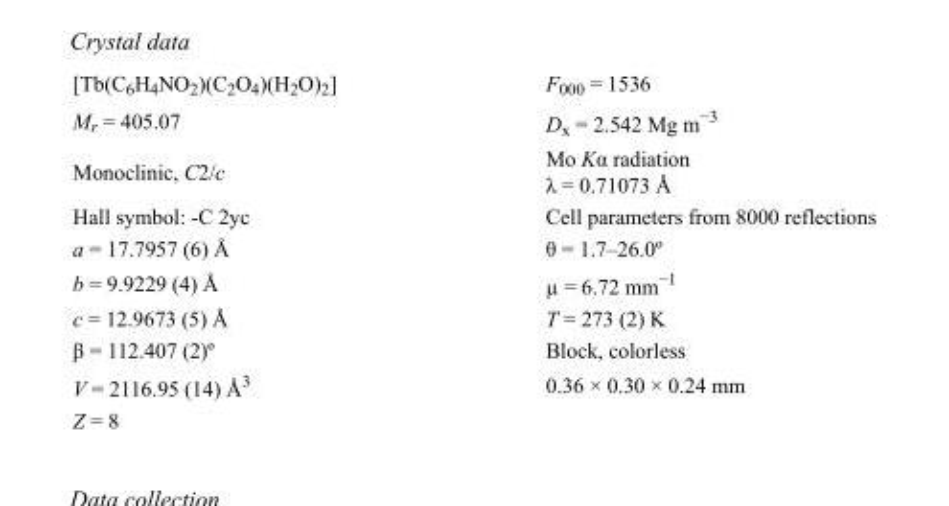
<table><tbody><tr><td>[Tb(C<sub>6</sub>H<sub>4</sub>NO<sub>2</sub>)(C<sub>2</sub>O<sub>4</sub>)(H<sub>2</sub>O)<sub>2</sub>]</td><td>F000 = 1536</td></tr><tr><td>M<sub>r</sub> = 405.07</td><td>D<sub>x</sub> = 2.542 Mg m<sup>−3</sup></td></tr><tr><td>Monoclinic, C2/c</td><td>Mo Kα radiation λ = 0.71073 Å</td></tr><tr><td>Hall symbol: -C 2yc</td><td>Cell parameters from 8000 reflections</td></tr><tr><td>a = 17.7957 (6) Å</td><td>θ = 1.7–26.0º</td></tr><tr><td>b = 9.9229 (4) Å</td><td>µ = 6.72 mm<sup>−1</sup></td></tr><tr><td>c = 12.9673 (5) Å</td><td>T = 273 (2) K</td></tr><tr><td>β = 112.407 (2)º</td><td>Block, colorless</td></tr><tr><td>V = 2116.95 (14) Å<sup>3</sup></td><td>0.36 × 0.30 × 0.24 mm</td></tr><tr><td>Z = 8</td><td></td></tr></tbody></table>